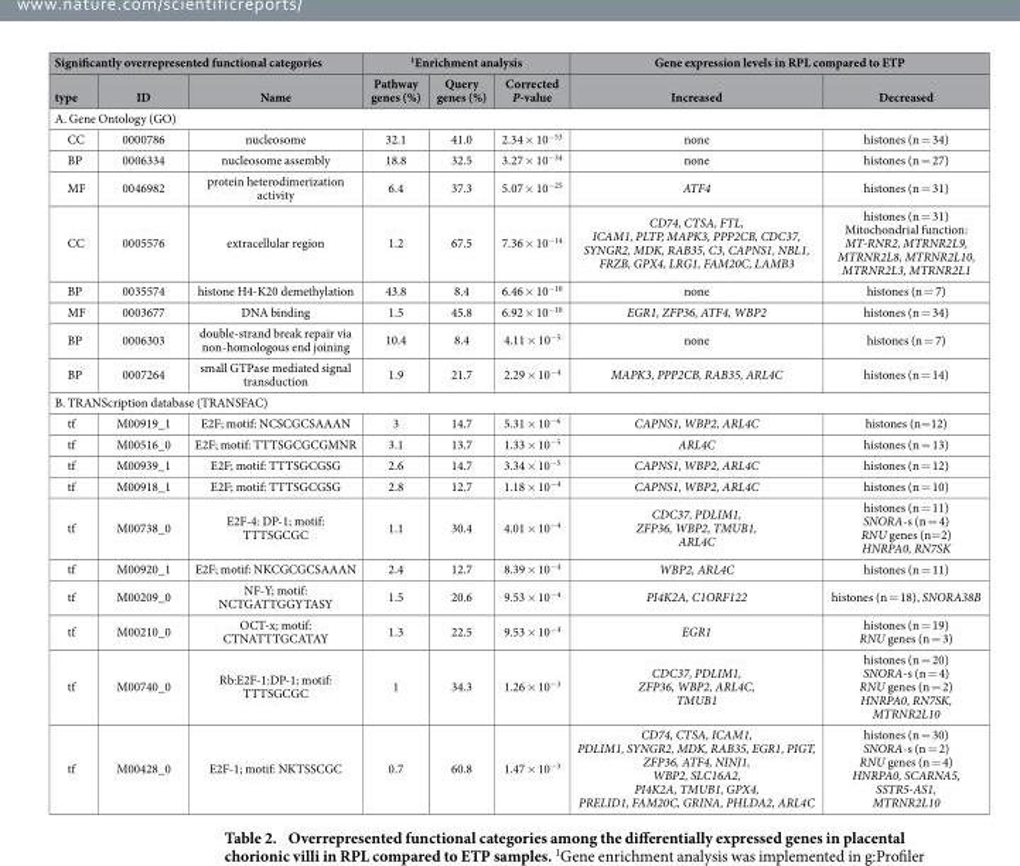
<table><thead><tr><td colspan="3">Significantly overrepresented functional categories</td><td colspan="3">1Enrichment analysis</td><td colspan="2">Gene expression levels in RPL compared to ETP</td></tr><tr><td>type</td><td>ID</td><td>Name</td><td>Pathway genes (%)</td><td>Query genes (%)</td><td>Corrected P-value</td><td>Increased</td><td>Decreased</td></tr></thead><tbody><tr><td colspan="8">A. Gene Ontology (GO)</td></tr><tr><td>CC</td><td>0000786</td><td>nucleosome</td><td>32.1</td><td>41.0</td><td>2.34 × 10<sup>−53</sup></td><td>none</td><td>histones (n = 34)</td></tr><tr><td>BP</td><td>0006334</td><td>nucleosome assembly</td><td>18.8</td><td>32.5</td><td>3.27 × 10<sup>−34</sup></td><td>none</td><td>histones (n = 27)</td></tr><tr><td>MF</td><td>0046982</td><td>protein heterodimerization activity</td><td>6.4</td><td>37.3</td><td>5.07 × 10<sup>−25</sup></td><td>ATF4</td><td>histones (n = 31)</td></tr><tr><td>CC</td><td>0005576</td><td>extracellular region</td><td>1.2</td><td>67.5</td><td>7.36 × 10<sup>−14</sup></td><td>CD74, CTSA, FTL, ICAM1, PLTP, MAPK3, PPP2CB, CDC37, SYNGR2, MDK, RAB35, C3, CAPNS1, NBL1, FRZB, GPX4, LRG1, FAM20C, LAMB3</td><td>histones (n = 31) Mitochondrial function: MT-RNR2, MTRNR2L9, MTRNR2L8, MTRNR2L10, MTRNR2L3, MTRNR2L1</td></tr><tr><td>BP</td><td>0035574</td><td>histone H4-K20 demethylation</td><td>43.8</td><td>8.4</td><td>6.46 × 10<sup>−10</sup></td><td>none</td><td>histones (n = 7)</td></tr><tr><td>MF</td><td>0003677</td><td>DNA binding</td><td>1.5</td><td>45.8</td><td>6.92 × 10<sup>−10</sup></td><td>EGR1, ZFP36, ATF4, WBP2</td><td>histones (n = 34)</td></tr><tr><td>BP</td><td>0006303</td><td>double-strand break repair via non-homologous end joining</td><td>10.4</td><td>8.4</td><td>4.11 × 10<sup>−5</sup></td><td>none</td><td>histones (n = 7)</td></tr><tr><td>BP</td><td>0007264</td><td>small GTPase mediated signal transduction</td><td>1.9</td><td>21.7</td><td>2.29 × 10<sup>−4</sup></td><td>MAPK3, PPP2CB, RAB35, ARL4C</td><td>histones (n = 14)</td></tr><tr><td colspan="8">B. TRANScription database (TRANSFAC)</td></tr><tr><td>tf</td><td>M00919_1</td><td>E2F; motif: NCSCGCSAAAN</td><td>3</td><td>14.7</td><td>5.31 × 10<sup>−6</sup></td><td>CAPNS1, WBP2, ARL4C</td><td>histones (n= 12)</td></tr><tr><td>tf</td><td>M00516_0</td><td>E2F; motif: TTTSGCGCGMNR</td><td>3.1</td><td>13.7</td><td>1.33 × 10<sup>−5</sup></td><td>ARL4C</td><td>histones (n = 13)</td></tr><tr><td>tf</td><td>M00939_1</td><td>E2F; motif: TTTSGCGSG</td><td>2.6</td><td>14.7</td><td>3.34 × 10<sup>−5</sup></td><td>CAPNS1, WBP2, ARL4C</td><td>histones (n = 12)</td></tr><tr><td>tf</td><td>M00918_1</td><td>E2F; motif: TTTSGCGSG</td><td>2.8</td><td>12.7</td><td>1.18 × 10<sup>−4</sup></td><td>CAPNS1, WBP2, ARL4C</td><td>histones (n = 10)</td></tr><tr><td>tf</td><td>M00738_0</td><td>E2F-4: DP-1; motif: TTTSGCGC</td><td>1.1</td><td>30.4</td><td>4.01 × 10<sup>−4</sup></td><td>CDC37, PDLIM1, ZFP36, WBP2, TMUB1, ARL4C</td><td>histones (n = 11) SNORA-s (n = 4) RNU genes (n= 2) HNRPA0, RN7SK</td></tr><tr><td>tf</td><td>M00920_1</td><td>E2F; motif: NKCGCGCSAAAN</td><td>2.4</td><td>12.7</td><td>8.39 × 10<sup>−4</sup></td><td>WBP2, ARL4C</td><td>histones (n = 11)</td></tr><tr><td>tf</td><td>M00209_0</td><td>NF-Y; motif: NCTGATTGGYTASY</td><td>1.5</td><td>20.6</td><td>9.53 × 10<sup>−4</sup></td><td>PI4K2A, C1ORF122</td><td>histones (n = 18), SNORA38B</td></tr><tr><td>tf</td><td>M00210_0</td><td>OCT-x; motif: CTNATTTGCATAY</td><td>1.3</td><td>22.5</td><td>9.53 × 10<sup>−4</sup></td><td>EGR1</td><td>histones (n = 19) RNU genes (n = 3)</td></tr><tr><td>tf</td><td>M00740_0</td><td>Rb:E2F-1:DP-1; motif: TTTSGCGC</td><td>1</td><td>34.3</td><td>1.26 × 10<sup>−3</sup></td><td>CDC37, PDLIM1, ZFP36, WBP2, ARL4C, TMUB1</td><td>histones (n = 20) SNORA-s (n = 4) RNU genes (n = 2) HNRPA0, RN7SK, MTRNR2L10</td></tr><tr><td>tf</td><td>M00428_0</td><td>E2F-1; motif: NKTSSCGC</td><td>0.7</td><td>60.8</td><td>1.47 × 10<sup>−3</sup></td><td>CD74, CTSA, ICAM1, PDLIM1, SYNGR2, MDK, RAB35, EGR1, PIGT, ZFP36, ATF4, NINJ1, WBP2, SLC16A2, PI4K2A, TMUB1, GPX4, PRELID1, FAM20C, GRINA, PHLDA2, ARL4C</td><td>histones (n = 30) SNORA-s (n = 2) RNU genes (n = 4) HNRPA0, SCARNA5, SSTR5-AS1, MTRNR2L10</td></tr></tbody></table>